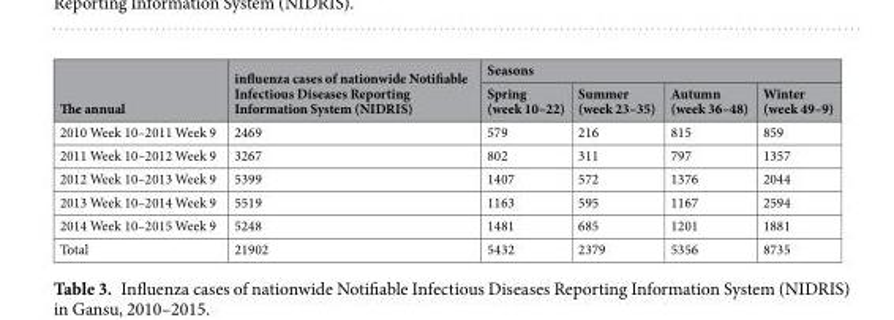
<table><thead><tr><td rowspan="2">The annual</td><td rowspan="2">influenza cases of nationwide Notifiable Infectious Diseases Reporting Information System (NIDRIS)</td><td colspan="4">Seasons</td></tr><tr><td>Spring (week 10–22)</td><td>Summer (week 23–35)</td><td>Autumn (week 36–48)</td><td>Winter (week 49–9)</td></tr></thead><tbody><tr><td>2010 Week 10–2011 Week 9</td><td>2469</td><td>579</td><td>216</td><td>815</td><td>859</td></tr><tr><td>2011 Week 10–2012 Week 9</td><td>3267</td><td>802</td><td>311</td><td>797</td><td>1357</td></tr><tr><td>2012 Week 10–2013 Week 9</td><td>5399</td><td>1407</td><td>572</td><td>1376</td><td>2044</td></tr><tr><td>2013 Week 10–2014 Week 9</td><td>5519</td><td>1163</td><td>595</td><td>1167</td><td>2594</td></tr><tr><td>2014 Week 10–2015 Week 9</td><td>5248</td><td>1481</td><td>685</td><td>1201</td><td>1881</td></tr><tr><td>Total</td><td>21902</td><td>5432</td><td>2379</td><td>5356</td><td>8735</td></tr></tbody></table>